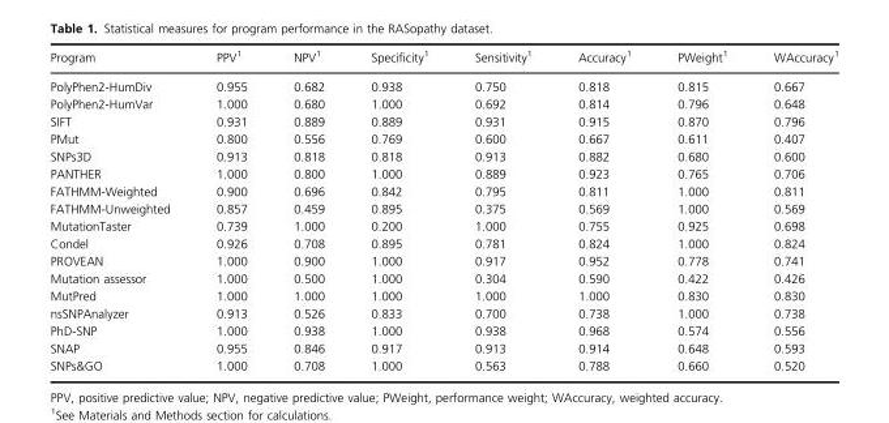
<table><thead><tr><td>Program</td><td>PPV<sup>1</sup></td><td>NPV<sup>1</sup></td><td>Specificity<sup>1</sup></td><td>Sensitivity<sup>1</sup></td><td>Accuracy<sup>1</sup></td><td>PWeight<sup>1</sup></td><td>WAccuracy<sup>1</sup></td></tr></thead><tbody><tr><td>PolyPhen2-HumDiv</td><td>0.955</td><td>0.682</td><td>0.938</td><td>0.750</td><td>0.818</td><td>0.815</td><td>0.667</td></tr><tr><td>PolyPhen2-HumVar</td><td>1.000</td><td>0.680</td><td>1.000</td><td>0.692</td><td>0.814</td><td>0.796</td><td>0.648</td></tr><tr><td>SIFT</td><td>0.931</td><td>0.889</td><td>0.889</td><td>0.931</td><td>0.915</td><td>0.870</td><td>0.796</td></tr><tr><td>PMut</td><td>0.800</td><td>0.556</td><td>0.769</td><td>0.600</td><td>0.667</td><td>0.611</td><td>0.407</td></tr><tr><td>SNPs3D</td><td>0.913</td><td>0.818</td><td>0.818</td><td>0.913</td><td>0.882</td><td>0.680</td><td>0.600</td></tr><tr><td>PANTHER</td><td>1.000</td><td>0.800</td><td>1.000</td><td>0.889</td><td>0.923</td><td>0.765</td><td>0.706</td></tr><tr><td>FATHMM-Weighted</td><td>0.900</td><td>0.696</td><td>0.842</td><td>0.795</td><td>0.811</td><td>1.000</td><td>0.811</td></tr><tr><td>FATHMM-Unweighted</td><td>0.857</td><td>0.459</td><td>0.895</td><td>0.375</td><td>0.569</td><td>1.000</td><td>0.569</td></tr><tr><td>MutationTaster</td><td>0.739</td><td>1.000</td><td>0.200</td><td>1.000</td><td>0.755</td><td>0.925</td><td>0.698</td></tr><tr><td>Condel</td><td>0.926</td><td>0.708</td><td>0.895</td><td>0.781</td><td>0.824</td><td>1.000</td><td>0.824</td></tr><tr><td>PROVEAN</td><td>1.000</td><td>0.900</td><td>1.000</td><td>0.917</td><td>0.952</td><td>0.778</td><td>0.741</td></tr><tr><td>Mutation assessor</td><td>1.000</td><td>0.500</td><td>1.000</td><td>0.304</td><td>0.590</td><td>0.422</td><td>0.426</td></tr><tr><td>MutPred</td><td>1.000</td><td>1.000</td><td>1.000</td><td>1.000</td><td>1.000</td><td>0.830</td><td>0.830</td></tr><tr><td>nsSNPAnalyzer</td><td>0.913</td><td>0.526</td><td>0.833</td><td>0.700</td><td>0.738</td><td>1.000</td><td>0.738</td></tr><tr><td>PhD-SNP</td><td>1.000</td><td>0.938</td><td>1.000</td><td>0.938</td><td>0.968</td><td>0.574</td><td>0.556</td></tr><tr><td>SNAP</td><td>0.955</td><td>0.846</td><td>0.917</td><td>0.913</td><td>0.914</td><td>0.648</td><td>0.593</td></tr><tr><td>SNPs&amp;GO</td><td>1.000</td><td>0.708</td><td>1.000</td><td>0.563</td><td>0.788</td><td>0.660</td><td>0.520</td></tr></tbody></table>